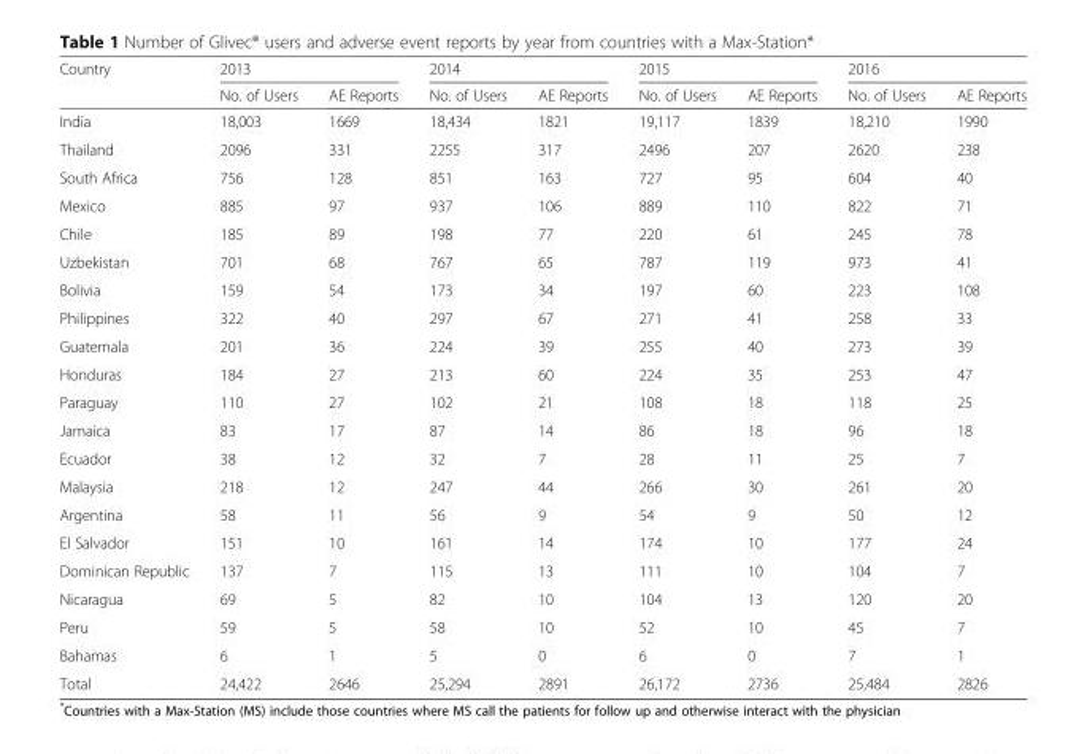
<table><thead><tr><td rowspan="2">Country</td><td colspan="2">2013</td><td colspan="2">2014</td><td colspan="2">2015</td><td colspan="2">2016</td></tr><tr><td>No. of Users</td><td>AE Reports</td><td>No. of Users</td><td>AE Reports</td><td>No. of Users</td><td>AE Reports</td><td>No. of Users</td><td>AE Reports</td></tr></thead><tbody><tr><td>India</td><td>18,003</td><td>1669</td><td>18,434</td><td>1821</td><td>19,117</td><td>1839</td><td>18,210</td><td>1990</td></tr><tr><td>Thailand</td><td>2096</td><td>331</td><td>2255</td><td>317</td><td>2496</td><td>207</td><td>2620</td><td>238</td></tr><tr><td>South Africa</td><td>756</td><td>128</td><td>851</td><td>163</td><td>727</td><td>95</td><td>604</td><td>40</td></tr><tr><td>Mexico</td><td>885</td><td>97</td><td>937</td><td>106</td><td>889</td><td>110</td><td>822</td><td>71</td></tr><tr><td>Chile</td><td>185</td><td>89</td><td>198</td><td>77</td><td>220</td><td>61</td><td>245</td><td>78</td></tr><tr><td>Uzbekistan</td><td>701</td><td>68</td><td>767</td><td>65</td><td>787</td><td>119</td><td>973</td><td>41</td></tr><tr><td>Bolivia</td><td>159</td><td>54</td><td>173</td><td>34</td><td>197</td><td>60</td><td>223</td><td>108</td></tr><tr><td>Philippines</td><td>322</td><td>40</td><td>297</td><td>67</td><td>271</td><td>41</td><td>258</td><td>33</td></tr><tr><td>Guatemala</td><td>201</td><td>36</td><td>224</td><td>39</td><td>255</td><td>40</td><td>273</td><td>39</td></tr><tr><td>Honduras</td><td>184</td><td>27</td><td>213</td><td>60</td><td>224</td><td>35</td><td>253</td><td>47</td></tr><tr><td>Paraguay</td><td>110</td><td>27</td><td>102</td><td>21</td><td>108</td><td>18</td><td>118</td><td>25</td></tr><tr><td>Jamaica</td><td>83</td><td>17</td><td>87</td><td>14</td><td>86</td><td>18</td><td>96</td><td>18</td></tr><tr><td>Ecuador</td><td>38</td><td>12</td><td>32</td><td>7</td><td>28</td><td>11</td><td>25</td><td>7</td></tr><tr><td>Malaysia</td><td>218</td><td>12</td><td>247</td><td>44</td><td>266</td><td>30</td><td>261</td><td>20</td></tr><tr><td>Argentina</td><td>58</td><td>11</td><td>56</td><td>9</td><td>54</td><td>9</td><td>50</td><td>12</td></tr><tr><td>El Salvador</td><td>151</td><td>10</td><td>161</td><td>14</td><td>174</td><td>10</td><td>177</td><td>24</td></tr><tr><td>Dominican Republic</td><td>137</td><td>7</td><td>115</td><td>13</td><td>111</td><td>10</td><td>104</td><td>7</td></tr><tr><td>Nicaragua</td><td>69</td><td>5</td><td>82</td><td>10</td><td>104</td><td>13</td><td>120</td><td>20</td></tr><tr><td>Peru</td><td>59</td><td>5</td><td>58</td><td>10</td><td>52</td><td>10</td><td>45</td><td>7</td></tr><tr><td>Bahamas</td><td>6</td><td>1</td><td>5</td><td>0</td><td>6</td><td>0</td><td>7</td><td>1</td></tr><tr><td>Total</td><td>24,422</td><td>2646</td><td>25,294</td><td>2891</td><td>26,172</td><td>2736</td><td>25,484</td><td>2826</td></tr></tbody></table>